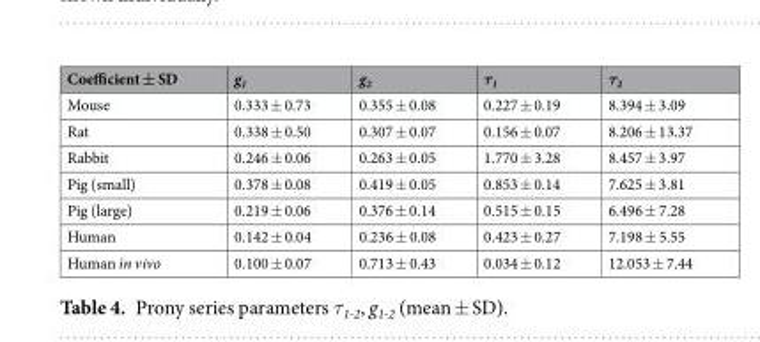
<table><thead><tr><td>Coefficient ± SD</td><td>g<sub>1</sub></td><td>g<sub>2</sub></td><td>τ<sub>1</sub></td><td>τ<sub>2</sub></td></tr></thead><tbody><tr><td>Mouse</td><td>0.333 ± 0.73</td><td>0.355 ± 0.08</td><td>0.227 ± 0.19</td><td>8.394 ± 3.09</td></tr><tr><td>Rat</td><td>0.338 ± 0.50</td><td>0.307 ± 0.07</td><td>0.156 ± 0.07</td><td>8.206 ± 13.37</td></tr><tr><td>Rabbit</td><td>0.246 ± 0.06</td><td>0.263 ± 0.05</td><td>1.770 ± 3.28</td><td>8.457 ± 3.97</td></tr><tr><td>Pig (small)</td><td>0.378 ± 0.08</td><td>0.419 ± 0.05</td><td>0.853 ± 0.14</td><td>7.625 ± 3.81</td></tr><tr><td>Pig (large)</td><td>0.219 ± 0.06</td><td>0.376 ± 0.14</td><td>0.515 ± 0.15</td><td>6.496 ± 7.28</td></tr><tr><td>Human</td><td>0.142 ± 0.04</td><td>0.236 ± 0.08</td><td>0.423 ± 0.27</td><td>7.198 ± 5.55</td></tr><tr><td>Human in vivo</td><td>0.100 ± 0.07</td><td>0.713 ± 0.43</td><td>0.034 ± 0.12</td><td>12.053 ± 7.44</td></tr></tbody></table>